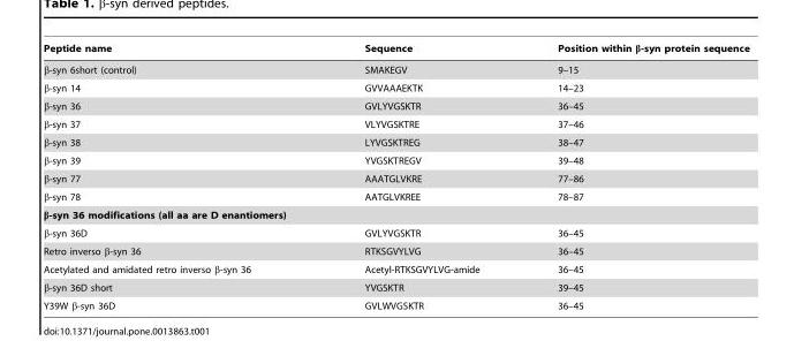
<table><thead><tr><td>Peptide name</td><td>Sequence</td><td>Position within β-syn protein sequence</td></tr></thead><tbody><tr><td>β-syn 6short (control)</td><td>SMAKEGV</td><td>9–15</td></tr><tr><td>β-syn 14</td><td>GVVAAAEKTK</td><td>14–23</td></tr><tr><td>β-syn 36</td><td>GVLYVGSKTR</td><td>36–45</td></tr><tr><td>β-syn 37</td><td>VLYVGSKTRE</td><td>37–46</td></tr><tr><td>β-syn 38</td><td>LYVGSKTREG</td><td>38–47</td></tr><tr><td>β-syn 39</td><td>YVGSKTREGV</td><td>39–48</td></tr><tr><td>β-syn 77</td><td>AAATGLVKRE</td><td>77–86</td></tr><tr><td>β-syn 78</td><td>AATGLVKREE</td><td>78–87</td></tr><tr><td colspan="3">β-syn 36 modifications (all aa are D enantiomers)</td></tr><tr><td>β-syn 36D</td><td>GVLYVGSKTR</td><td>36–45</td></tr><tr><td>Retro inverso β-syn 36</td><td>RTKSGVYLVG</td><td>36–45</td></tr><tr><td>Acetylated and amidated retro inverso β-syn 36</td><td>Acetyl-RTKSGVYLVG-amide</td><td>36–45</td></tr><tr><td>β-syn 36D short</td><td>YVGSKTR</td><td>39–45</td></tr><tr><td>Y39W β-syn 36D</td><td>GVLWVGSKTR</td><td>36–45</td></tr></tbody></table>